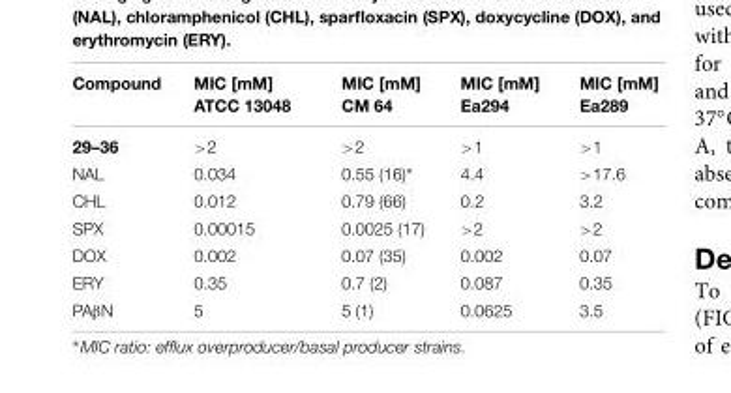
<table><thead><tr><td>Compound</td><td>MIC [mM] ATCC 13048</td><td>MIC [mM] CM 64</td><td>MIC [mM] Ea294</td><td>MIC [mM] Ea289</td></tr></thead><tbody><tr><td>29–36</td><td>&gt;2</td><td>&gt;2</td><td>&gt;1</td><td>&gt;1</td></tr><tr><td>NAL</td><td>0.034</td><td>0.55 (16)∗</td><td>4.4</td><td>&gt;17.6</td></tr><tr><td>CHL</td><td>0.012</td><td>0.79 (66)</td><td>0.2</td><td>3.2</td></tr><tr><td>SPX</td><td>0.00015</td><td>0.0025 (17)</td><td>&gt;2</td><td>&gt;2</td></tr><tr><td>DOX</td><td>0.002</td><td>0.07 (35)</td><td>0.002</td><td>0.07</td></tr><tr><td>ERY</td><td>0.35</td><td>0.7 (2)</td><td>0.087</td><td>0.35</td></tr><tr><td>PAβN</td><td>5</td><td>5 (1)</td><td>0.0625</td><td>3.5</td></tr></tbody></table>